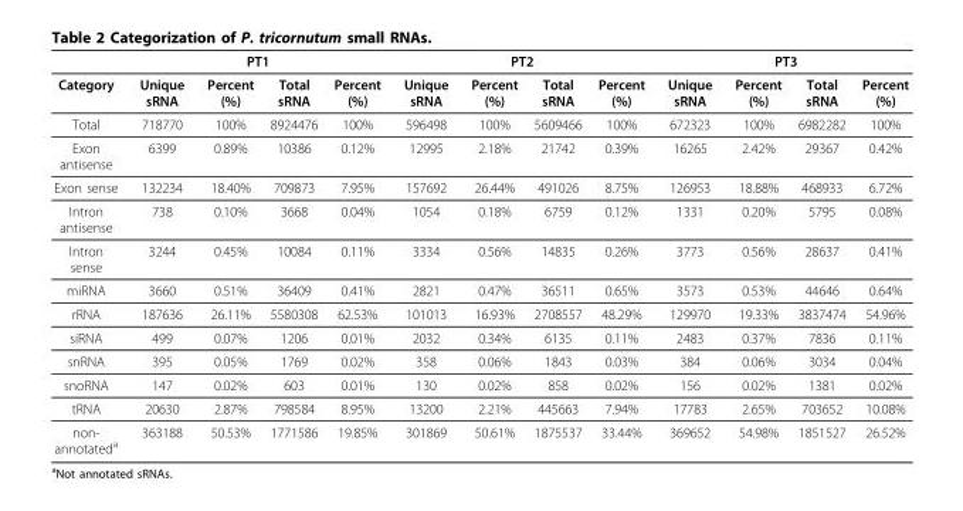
<table><thead><tr><td rowspan="2">Category</td><td colspan="4">PT1</td><td colspan="4">PT2</td><td colspan="4">PT3</td></tr><tr><td>Unique sRNA</td><td>Percent (%)</td><td>Total sRNA</td><td>Percent (%)</td><td>Unique sRNA</td><td>Percent (%)</td><td>Total sRNA</td><td>Percent (%)</td><td>Unique sRNA</td><td>Percent (%)</td><td>Total sRNA</td><td>Percent (%)</td></tr></thead><tbody><tr><td>Total</td><td>718770</td><td>100%</td><td>8924476</td><td>100%</td><td>596498</td><td>100%</td><td>5609466</td><td>100%</td><td>672323</td><td>100%</td><td>6982282</td><td>100%</td></tr><tr><td>Exon antisense</td><td>6399</td><td>0.89%</td><td>10386</td><td>0.12%</td><td>12995</td><td>2.18%</td><td>21742</td><td>0.39%</td><td>16265</td><td>2.42%</td><td>29367</td><td>0.42%</td></tr><tr><td>Exon sense</td><td>132234</td><td>18.40%</td><td>709873</td><td>7.95%</td><td>157692</td><td>26.44%</td><td>491026</td><td>8.75%</td><td>126953</td><td>18.88%</td><td>468933</td><td>6.72%</td></tr><tr><td>Intron antisense</td><td>738</td><td>0.10%</td><td>3668</td><td>0.04%</td><td>1054</td><td>0.18%</td><td>6759</td><td>0.12%</td><td>1331</td><td>0.20%</td><td>5795</td><td>0.08%</td></tr><tr><td>Intron sense</td><td>3244</td><td>0.45%</td><td>10084</td><td>0.11%</td><td>3334</td><td>0.56%</td><td>14835</td><td>0.26%</td><td>3773</td><td>0.56%</td><td>28637</td><td>0.41%</td></tr><tr><td>miRNA</td><td>3660</td><td>0.51%</td><td>36409</td><td>0.41%</td><td>2821</td><td>0.47%</td><td>36511</td><td>0.65%</td><td>3573</td><td>0.53%</td><td>44646</td><td>0.64%</td></tr><tr><td>rRNA</td><td>187636</td><td>26.11%</td><td>5580308</td><td>62.53%</td><td>101013</td><td>16.93%</td><td>2708557</td><td>48.29%</td><td>129970</td><td>19.33%</td><td>3837474</td><td>54.96%</td></tr><tr><td>siRNA</td><td>499</td><td>0.07%</td><td>1206</td><td>0.01%</td><td>2032</td><td>0.34%</td><td>6135</td><td>0.11%</td><td>2483</td><td>0.37%</td><td>7836</td><td>0.11%</td></tr><tr><td>snRNA</td><td>395</td><td>0.05%</td><td>1769</td><td>0.02%</td><td>358</td><td>0.06%</td><td>1843</td><td>0.03%</td><td>384</td><td>0.06%</td><td>3034</td><td>0.04%</td></tr><tr><td>snoRNA</td><td>147</td><td>0.02%</td><td>603</td><td>0.01%</td><td>130</td><td>0.02%</td><td>858</td><td>0.02%</td><td>156</td><td>0.02%</td><td>1381</td><td>0.02%</td></tr><tr><td>tRNA</td><td>20630</td><td>2.87%</td><td>798584</td><td>8.95%</td><td>13200</td><td>2.21%</td><td>445663</td><td>7.94%</td><td>17783</td><td>2.65%</td><td>703652</td><td>10.08%</td></tr><tr><td>non- annotated<sup>a</sup></td><td>363188</td><td>50.53%</td><td>1771586</td><td>19.85%</td><td>301869</td><td>50.61%</td><td>1875537</td><td>33.44%</td><td>369652</td><td>54.98%</td><td>1851527</td><td>26.52%</td></tr></tbody></table>